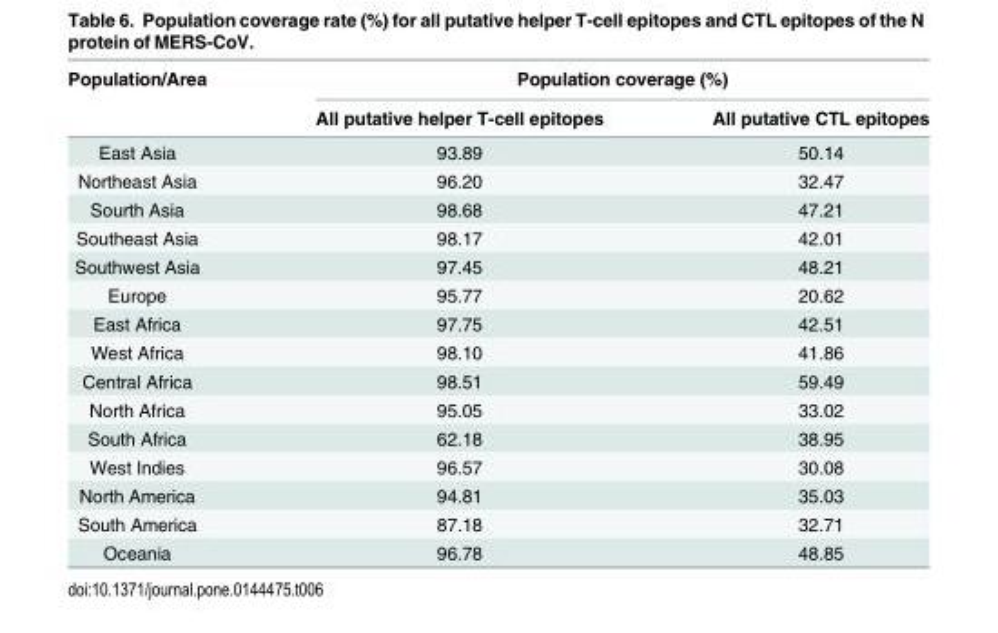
<table><thead><tr><td rowspan="2">Population/Area</td><td colspan="2">Population coverage (%)</td></tr><tr><td>All putative helper T-cell epitopes</td><td>All putative CTL epitopes</td></tr></thead><tbody><tr><td>East Asia</td><td>93.89</td><td>50.14</td></tr><tr><td>Northeast Asia</td><td>96.20</td><td>32.47</td></tr><tr><td>Sourth Asia</td><td>98.68</td><td>47.21</td></tr><tr><td>Southeast Asia</td><td>98.17</td><td>42.01</td></tr><tr><td>Southwest Asia</td><td>97.45</td><td>48.21</td></tr><tr><td>Europe</td><td>95.77</td><td>20.62</td></tr><tr><td>East Africa</td><td>97.75</td><td>42.51</td></tr><tr><td>West Africa</td><td>98.10</td><td>41.86</td></tr><tr><td>Central Africa</td><td>98.51</td><td>59.49</td></tr><tr><td>North Africa</td><td>95.05</td><td>33.02</td></tr><tr><td>South Africa</td><td>62.18</td><td>38.95</td></tr><tr><td>West Indies</td><td>96.57</td><td>30.08</td></tr><tr><td>North America</td><td>94.81</td><td>35.03</td></tr><tr><td>South America</td><td>87.18</td><td>32.71</td></tr><tr><td>Oceania</td><td>96.78</td><td>48.85</td></tr></tbody></table>